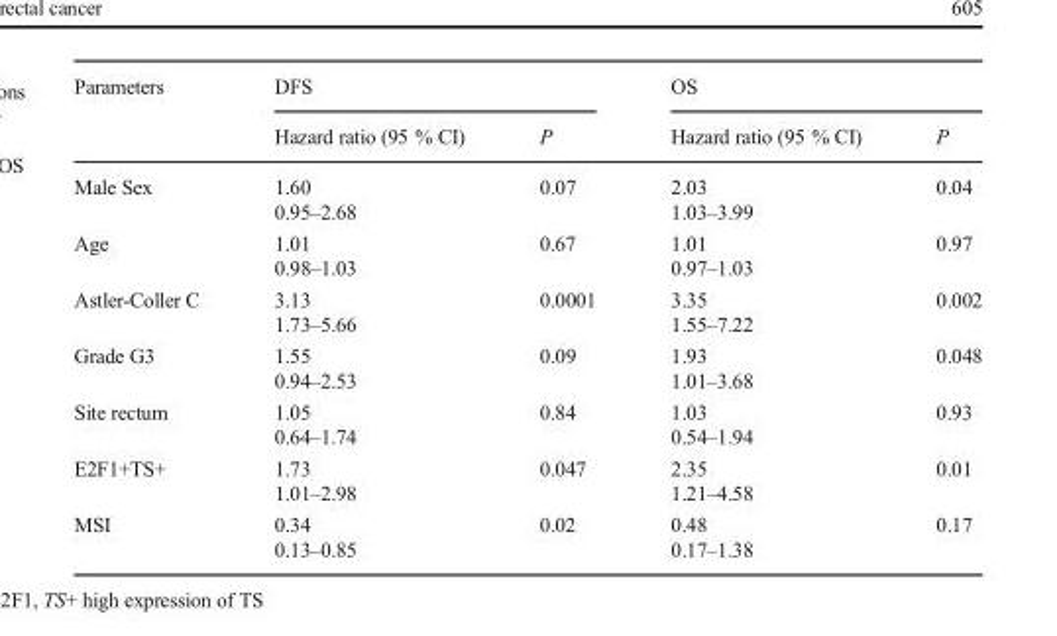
<table><thead><tr><td rowspan="2">Parameters</td><td colspan="2">DFS</td><td colspan="2">OS</td></tr><tr><td>Hazard ratio (95 % CI)</td><td>P</td><td>Hazard ratio (95 % CI)</td><td>P</td></tr></thead><tbody><tr><td rowspan="2">Male Sex</td><td>1.60</td><td rowspan="2">0.07</td><td>2.03</td><td rowspan="2">0.04</td></tr><tr><td>0.95–2.68</td><td>1.03–3.99</td></tr><tr><td rowspan="2">Age</td><td>1.01</td><td rowspan="2">0.67</td><td>1.01</td><td rowspan="2">0.97</td></tr><tr><td>0.98–1.03</td><td>0.97–1.03</td></tr><tr><td rowspan="2">Astler-Coller C</td><td>3.13</td><td rowspan="2">0.0001</td><td>3.35</td><td rowspan="2">0.002</td></tr><tr><td>1.73–5.66</td><td>1.55–7.22</td></tr><tr><td rowspan="2">Grade G3</td><td>1.55</td><td rowspan="2">0.09</td><td>1.93</td><td rowspan="2">0.048</td></tr><tr><td>0.94–2.53</td><td>1.01–3.68</td></tr><tr><td rowspan="2">Site rectum</td><td>1.05</td><td rowspan="2">0.84</td><td>1.03</td><td rowspan="2">0.93</td></tr><tr><td>0.64–1.74</td><td>0.54–1.94</td></tr><tr><td rowspan="2">E2F1+TS+</td><td>1.73</td><td rowspan="2">0.047</td><td>2.35</td><td rowspan="2">0.01</td></tr><tr><td>1.01–2.98</td><td>1.21–4.58</td></tr><tr><td rowspan="2">MSI</td><td>0.34</td><td rowspan="2">0.02</td><td>0.48</td><td rowspan="2">0.17</td></tr><tr><td>0.13–0.85</td><td>0.17–1.38</td></tr></tbody></table>